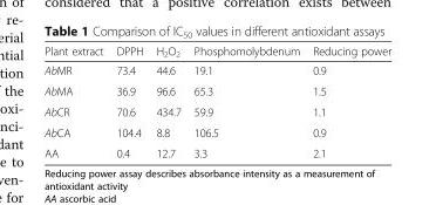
<table><thead><tr><td>Plant extract</td><td>DPPH</td><td>H<sub>2</sub>O<sub>2</sub></td><td>Phosphomolybdenum</td><td>Reducing power</td></tr></thead><tbody><tr><td>AbMR</td><td>73.4</td><td>44.6</td><td>19.1</td><td>0.9</td></tr><tr><td>AbMA</td><td>36.9</td><td>96.6</td><td>65.3</td><td>1.5</td></tr><tr><td>AbCR</td><td>70.6</td><td>434.7</td><td>59.9</td><td>1.1</td></tr><tr><td>AbCA</td><td>104.4</td><td>8.8</td><td>106.5</td><td>0.9</td></tr><tr><td>AA</td><td>0.4</td><td>12.7</td><td>3.3</td><td>2.1</td></tr></tbody></table>